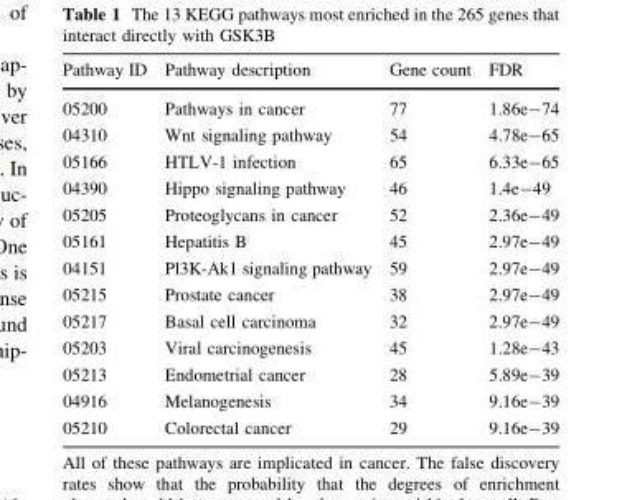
<table><thead><tr><td>Pathway ID</td><td>Pathway description</td><td>Gene count</td><td>FDR</td></tr></thead><tbody><tr><td>05200</td><td>Pathways in cancer</td><td>77</td><td>1.86e-74</td></tr><tr><td>04310</td><td>Wnt signaling pathway</td><td>54</td><td>4.78e-65</td></tr><tr><td>05166</td><td>HTLV-1 infection</td><td>65</td><td>6.33e-65</td></tr><tr><td>04390</td><td>Hippo signaling pathway</td><td>46</td><td>1.4e-49</td></tr><tr><td>05205</td><td>Proteoglycans in cancer</td><td>52</td><td>2.36e-49</td></tr><tr><td>05161</td><td>Hepatitis B</td><td>45</td><td>2.97e-49</td></tr><tr><td>04151</td><td>Pl3K-Ak1 signaling pathway</td><td>59</td><td>2.97e-49</td></tr><tr><td>05215</td><td>Prostate cancer</td><td>38</td><td>2.97e-49</td></tr><tr><td>05217</td><td>Basal cell carcinoma</td><td>32</td><td>2.97e-49</td></tr><tr><td>05203</td><td>Viral carcinogenesis</td><td>45</td><td>1.28e-43</td></tr><tr><td>05213</td><td>Endometrial cancer</td><td>28</td><td>5.89e-39</td></tr><tr><td>04916</td><td>Melanogenesis</td><td>34</td><td>9.16e-39</td></tr><tr><td>05210</td><td>Colorectal cancer</td><td>29</td><td>9.16e-39</td></tr></tbody></table>